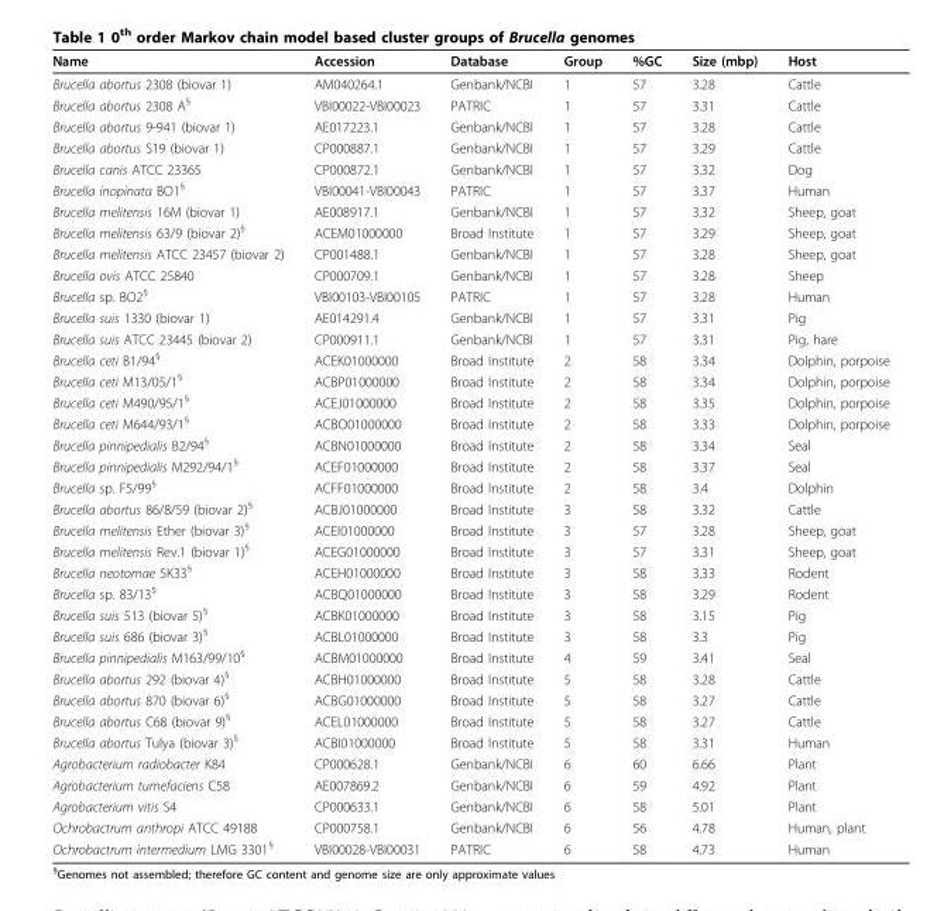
<table><thead><tr><td>Name</td><td>Accession</td><td>Database</td><td>Group</td><td>%GC</td><td>Size (mbp)</td><td>Host</td></tr></thead><tbody><tr><td>Brucella abortus 2308 (biovar 1)</td><td>AM040264.1</td><td>Genbank/NCBI</td><td>1</td><td>57</td><td>3.28</td><td>Cattle</td></tr><tr><td>Brucella abortus 2308 A<sup>§</sup></td><td>VBI00022-VBI00023</td><td>PATRIC</td><td>1</td><td>57</td><td>3.31</td><td>Cattle</td></tr><tr><td>Brucella abortus 9-941 (biovar 1)</td><td>AE017223.1</td><td>Genbank/NCBI</td><td>1</td><td>57</td><td>3.28</td><td>Cattle</td></tr><tr><td>Brucella abortus S19 (biovar 1)</td><td>CP000887.1</td><td>Genbank/NCBI</td><td>1</td><td>57</td><td>3.29</td><td>Cattle</td></tr><tr><td>Brucella canis ATCC 23365</td><td>CP000872.1</td><td>Genbank/NCBI</td><td>1</td><td>57</td><td>3.32</td><td>Dog</td></tr><tr><td>Brucella inopinata BO1<sup>§</sup></td><td>VBI00041-VBI00043</td><td>PATRIC</td><td>1</td><td>57</td><td>3.37</td><td>Human</td></tr><tr><td>Brucella melitensis 16M (biovar 1)</td><td>AE008917.1</td><td>Genbank/NCBI</td><td>1</td><td>57</td><td>3.32</td><td>Sheep, goat</td></tr><tr><td>Brucella melitensis 63/9 (biovar 2)<sup>§</sup></td><td>ACEM01000000</td><td>Broad Institute</td><td>1</td><td>57</td><td>3.29</td><td>Sheep, goat</td></tr><tr><td>Brucella melitensis ATCC 23457 (biovar 2)</td><td>CP001488.1</td><td>Genbank/NCBI</td><td>1</td><td>57</td><td>3.28</td><td>Sheep, goat</td></tr><tr><td>Brucella ovis ATCC 25840</td><td>CP000709.1</td><td>Genbank/NCBI</td><td>1</td><td>57</td><td>3.28</td><td>Sheep</td></tr><tr><td>Brucella sp. BO2<sup>§</sup></td><td>VBI00103-VBI00105</td><td>PATRIC</td><td>1</td><td>57</td><td>3.28</td><td>Human</td></tr><tr><td>Brucella suis 1330 (biovar 1)</td><td>AE014291.4</td><td>Genbank/NCBI</td><td>1</td><td>57</td><td>3.31</td><td>Pig</td></tr><tr><td>Brucella suis ATCC 23445 (biovar 2)</td><td>CP000911.1</td><td>Genbank/NCBI</td><td>1</td><td>57</td><td>3.31</td><td>Pig, hare</td></tr><tr><td>Brucella ceti B1/94<sup>§</sup></td><td>ACEK01000000</td><td>Broad Institute</td><td>2</td><td>58</td><td>3.34</td><td>Dolphin, porpoise</td></tr><tr><td>Brucella ceti M13/05/1<sup>§</sup></td><td>ACBP01000000</td><td>Broad Institute</td><td>2</td><td>58</td><td>3.34</td><td>Dolphin, porpoise</td></tr><tr><td>Brucella ceti M490/95/1<sup>§</sup></td><td>ACEJ01000000</td><td>Broad Institute</td><td>2</td><td>58</td><td>3.35</td><td>Dolphin, porpoise</td></tr><tr><td>Brucella ceti M644/93/1<sup>§</sup></td><td>ACBO01000000</td><td>Broad Institute</td><td>2</td><td>58</td><td>3.33</td><td>Dolphin, porpoise</td></tr><tr><td>Brucella pinnipedialis B2/94<sup>§</sup></td><td>ACBN01000000</td><td>Broad Institute</td><td>2</td><td>58</td><td>3.34</td><td>Seal</td></tr><tr><td>Brucella pinnipedialis M292/94/1<sup>§</sup></td><td>ACEF01000000</td><td>Broad Institute</td><td>2</td><td>58</td><td>3.37</td><td>Seal</td></tr><tr><td>Brucella sp. F5/99<sup>§</sup></td><td>ACFF01000000</td><td>Broad Institute</td><td>2</td><td>58</td><td>3.4</td><td>Dolphin</td></tr><tr><td>Brucella abortus 86/8/59 (biovar 2)<sup>§</sup></td><td>ACBJ01000000</td><td>Broad Institute</td><td>3</td><td>58</td><td>3.32</td><td>Cattle</td></tr><tr><td>Brucella melitensis Ether (biovar 3)<sup>§</sup></td><td>ACEI01000000</td><td>Broad Institute</td><td>3</td><td>57</td><td>3.28</td><td>Sheep, goat</td></tr><tr><td>Brucella melitensis Rev.1 (biovar 1)<sup>§</sup></td><td>ACEG01000000</td><td>Broad Institute</td><td>3</td><td>57</td><td>3.31</td><td>Sheep, goat</td></tr><tr><td>Brucella neotomae 5K33<sup>§</sup></td><td>ACEH01000000</td><td>Broad Institute</td><td>3</td><td>58</td><td>3.33</td><td>Rodent</td></tr><tr><td>Brucella sp. 83/13<sup>§</sup></td><td>ACBQ01000000</td><td>Broad Institute</td><td>3</td><td>58</td><td>3.29</td><td>Rodent</td></tr><tr><td>Brucella suis 513 (biovar 5)<sup>§</sup></td><td>ACBK01000000</td><td>Broad Institute</td><td>3</td><td>58</td><td>3.15</td><td>Pig</td></tr><tr><td>Brucella suis 686 (biovar 3)<sup>§</sup></td><td>ACBL01000000</td><td>Broad Institute</td><td>3</td><td>58</td><td>3.3</td><td>Pig</td></tr><tr><td>Brucella pinnipedialis M163/99/10<sup>§</sup></td><td>ACBM01000000</td><td>Broad Institute</td><td>4</td><td>59</td><td>3.41</td><td>Seal</td></tr><tr><td>Brucella abortus 292 (biovar 4)<sup>§</sup></td><td>ACBH01000000</td><td>Broad Institute</td><td>5</td><td>58</td><td>3.28</td><td>Cattle</td></tr><tr><td>Brucella abortus 870 (biovar 6)<sup>§</sup></td><td>ACBG01000000</td><td>Broad Institute</td><td>5</td><td>58</td><td>3.27</td><td>Cattle</td></tr><tr><td>Brucella abortus C68 (biovar 9)<sup>§</sup></td><td>ACEL01000000</td><td>Broad Institute</td><td>5</td><td>58</td><td>3.27</td><td>Cattle</td></tr><tr><td>Brucella abortus Tulya (biovar 3)<sup>§</sup></td><td>ACBI01000000</td><td>Broad Institute</td><td>5</td><td>58</td><td>3.31</td><td>Human</td></tr><tr><td>Agrobacterium radiobacter K84</td><td>CP000628.1</td><td>Genbank/NCBI</td><td>6</td><td>60</td><td>6.66</td><td>Plant</td></tr><tr><td>Agrobacterium tumefaciens C58</td><td>AE007869.2</td><td>Genbank/NCBI</td><td>6</td><td>59</td><td>4.92</td><td>Plant</td></tr><tr><td>Agrobacterium vitis S4</td><td>CP000633.1</td><td>Genbank/NCBI</td><td>6</td><td>58</td><td>5.01</td><td>Plant</td></tr><tr><td>Ochrobactrum anthropi ATCC 49188</td><td>CP000758.1</td><td>Genbank/NCBI</td><td>6</td><td>56</td><td>4.78</td><td>Human, plant</td></tr><tr><td>Ochrobactrum intermedium LMG 3301<sup>§</sup></td><td>VBI00028-VBI00031</td><td>PATRIC</td><td>6</td><td>58</td><td>4.73</td><td>Human</td></tr></tbody></table>